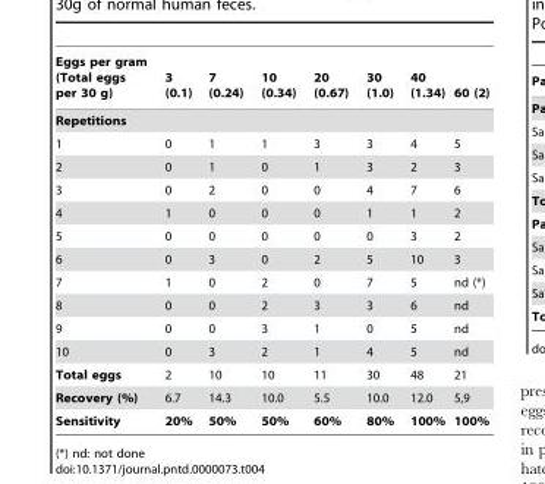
<table><thead><tr><td>Eggs per gram (Total eggs per 30 g)</td><td>3 (0.1)</td><td>7 (0.24)</td><td>10 (0.34)</td><td>20 (0.67)</td><td>30 (1.0)</td><td>40 (1.34)</td><td>60 (2)</td></tr></thead><tbody><tr><td colspan="8">Repetitions</td></tr><tr><td>1</td><td>0</td><td>1</td><td>1</td><td>3</td><td>3</td><td>4</td><td>5</td></tr><tr><td>2</td><td>0</td><td>1</td><td>0</td><td>1</td><td>3</td><td>2</td><td>3</td></tr><tr><td>3</td><td>0</td><td>2</td><td>0</td><td>0</td><td>4</td><td>7</td><td>6</td></tr><tr><td>4</td><td>1</td><td>0</td><td>0</td><td>0</td><td>1</td><td>1</td><td>2</td></tr><tr><td>5</td><td>0</td><td>0</td><td>0</td><td>0</td><td>0</td><td>3</td><td>2</td></tr><tr><td>6</td><td>0</td><td>3</td><td>0</td><td>2</td><td>5</td><td>10</td><td>3</td></tr><tr><td>7</td><td>1</td><td>0</td><td>2</td><td>0</td><td>7</td><td>5</td><td>nd (*)</td></tr><tr><td>8</td><td>0</td><td>0</td><td>2</td><td>3</td><td>3</td><td>6</td><td>nd</td></tr><tr><td>9</td><td>0</td><td>0</td><td>3</td><td>1</td><td>0</td><td>5</td><td>nd</td></tr><tr><td>10</td><td>0</td><td>3</td><td>2</td><td>1</td><td>4</td><td>5</td><td>nd</td></tr><tr><td>Total eggs</td><td>2</td><td>10</td><td>10</td><td>11</td><td>30</td><td>48</td><td>21</td></tr><tr><td>Recovery (%)</td><td>6.7</td><td>14.3</td><td>10.0</td><td>5.5</td><td>10.0</td><td>12.0</td><td>5,9</td></tr><tr><td>Sensitivity</td><td>20%</td><td>50%</td><td>50%</td><td>60%</td><td>80%</td><td>100%</td><td>100%</td></tr></tbody></table>